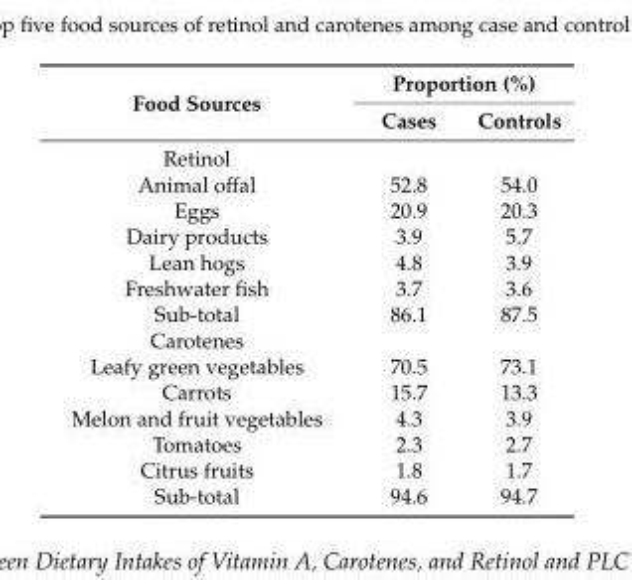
<table><thead><tr><td rowspan="2">Food Sources</td><td colspan="2">Proportion (%)</td></tr><tr><td>Cases</td><td>Controls</td></tr></thead><tbody><tr><td colspan="3">Retinol</td></tr><tr><td>Animal offal</td><td>52.8</td><td>54.0</td></tr><tr><td>Eggs</td><td>20.9</td><td>20.3</td></tr><tr><td>Dairy products</td><td>3.9</td><td>5.7</td></tr><tr><td>Lean hogs</td><td>4.8</td><td>3.9</td></tr><tr><td>Freshwater fish</td><td>3.7</td><td>3.6</td></tr><tr><td>Sub-total</td><td>86.1</td><td>87.5</td></tr><tr><td colspan="3">Carotenes</td></tr><tr><td>Leafy green vegetables</td><td>70.5</td><td>73.1</td></tr><tr><td>Carrots</td><td>15.7</td><td>13.3</td></tr><tr><td>Melon and fruit vegetables</td><td>4.3</td><td>3.9</td></tr><tr><td>Tomatoes</td><td>2.3</td><td>2.7</td></tr><tr><td>Citrus fruits</td><td>1.8</td><td>1.7</td></tr><tr><td>Sub-total</td><td>94.6</td><td>94.7</td></tr></tbody></table>